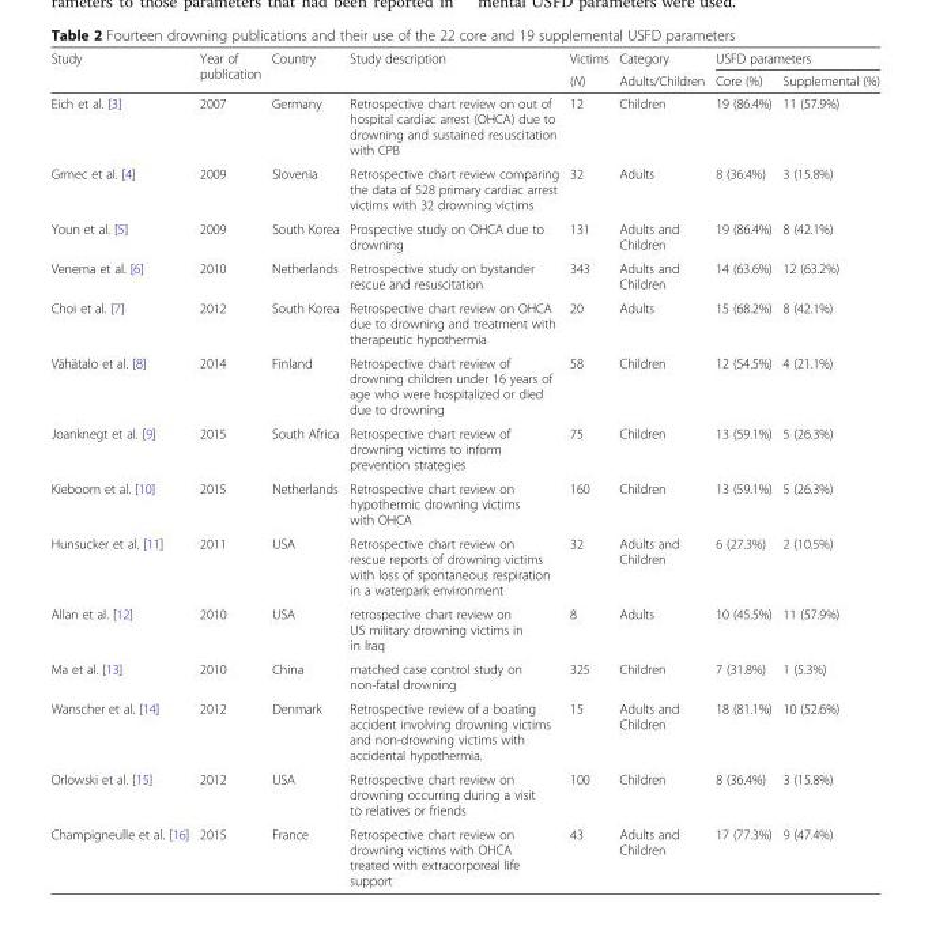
<table><thead><tr><td rowspan="2">Study</td><td rowspan="2">Year of publication</td><td rowspan="2">Country</td><td rowspan="2">Study description</td><td rowspan="2">Victims (N)</td><td rowspan="2">Category Adults/Children</td><td colspan="2">USFD parameters</td></tr><tr><td>Core (%)</td><td>Supplemental (%)</td></tr></thead><tbody><tr><td>Eich et al. [3]</td><td>2007</td><td>Germany</td><td>Retrospective chart review on out of hospital cardiac arrest (OHCA) due to drowning and sustained resuscitation with CPB</td><td>12</td><td>Children</td><td>19 (86.4%)</td><td>11 (57.9%)</td></tr><tr><td>Grmec et al. [4]</td><td>2009</td><td>Slovenia</td><td>Retrospective chart review comparing the data of 528 primary cardiac arrest victims with 32 drowning victims</td><td>32</td><td>Adults</td><td>8 (36.4%)</td><td>3 (15.8%)</td></tr><tr><td>Youn et al. [5]</td><td>2009</td><td>South Korea</td><td>Prospective study on OHCA due to drowning</td><td>131</td><td>Adults and Children</td><td>19 (86.4%)</td><td>8 (42.1%)</td></tr><tr><td>Venema et al. [6]</td><td>2010</td><td>Netherlands</td><td>Retrospective study on bystander rescue and resuscitation</td><td>343</td><td>Adults and Children</td><td>14 (63.6%)</td><td>12 (63.2%)</td></tr><tr><td>Choi et al. [7]</td><td>2012</td><td>South Korea</td><td>Retrospective chart review on OHCA due to drowning and treatment with therapeutic hypothermia</td><td>20</td><td>Adults</td><td>15 (68.2%)</td><td>8 (42.1%)</td></tr><tr><td>Vähätalo et al. [8]</td><td>2014</td><td>Finland</td><td>Retrospective chart review of drowning children under 16 years of age who were hospitalized or died due to drowning</td><td>58</td><td>Children</td><td>12 (54.5%)</td><td>4 (21.1%)</td></tr><tr><td>Joanknegt et al. [9]</td><td>2015</td><td>South Africa</td><td>Retrospective chart review of drowning victims to inform prevention strategies</td><td>75</td><td>Children</td><td>13 (59.1%)</td><td>5 (26.3%)</td></tr><tr><td>Kieboom et al. [10]</td><td>2015</td><td>Netherlands</td><td>Retrospective chart review on hypothermic drowning victims with OHCA</td><td>160</td><td>Children</td><td>13 (59.1%)</td><td>5 (26.3%)</td></tr><tr><td>Hunsucker et al. [11]</td><td>2011</td><td>USA</td><td>Retrospective chart review on rescue reports of drowning victims with loss of spontaneous respiration in a waterpark environment</td><td>32</td><td>Adults and Children</td><td>6 (27.3%)</td><td>2 (10.5%)</td></tr><tr><td>Allan et al. [12]</td><td>2010</td><td>USA</td><td>retrospective chart review on US military drowning victims in in Iraq</td><td>8</td><td>Adults</td><td>10 (45.5%)</td><td>11 (57.9%)</td></tr><tr><td>Ma et al. [13]</td><td>2010</td><td>China</td><td>matched case control study on non-fatal drowning</td><td>325</td><td>Children</td><td>7 (31.8%)</td><td>1 (5.3%)</td></tr><tr><td>Wanscher et al. [14]</td><td>2012</td><td>Denmark</td><td>Retrospective review of a boating accident involving drowning victims and non-drowning victims with accidental hypothermia.</td><td>15</td><td>Adults and Children</td><td>18 (81.1%)</td><td>10 (52.6%)</td></tr><tr><td>Orlowski et al. [15]</td><td>2012</td><td>USA</td><td>Retrospective chart review on drowning occurring during a visit to relatives or friends</td><td>100</td><td>Children</td><td>8 (36.4%)</td><td>3 (15.8%)</td></tr><tr><td>Champigneulle et al. [16]</td><td>2015</td><td>France</td><td>Retrospective chart review on drowning victims with OHCA treated with extracorporeal life support</td><td>43</td><td>Adults and Children</td><td>17 (77.3%)</td><td>9 (47.4%)</td></tr></tbody></table>